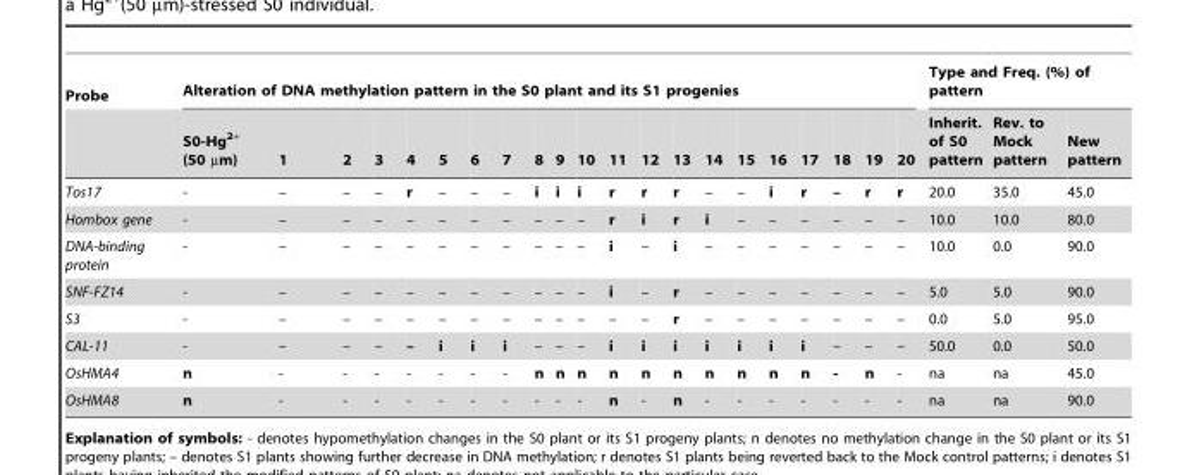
<table><thead><tr><td rowspan="2">Probe</td><td colspan="21">Alteration of DNA methylation pattern in the S0 plant and its S1 progenies</td><td colspan="3">Type and Freq. (%) of pattern</td></tr><tr><td>S0-Hg<sup>2+</sup> (50 µm)</td><td>1</td><td>2</td><td>3</td><td>4</td><td>5</td><td>6</td><td>7</td><td>8</td><td>9</td><td>10</td><td>11</td><td>12</td><td>13</td><td>14</td><td>15</td><td>16</td><td>17</td><td>18</td><td>19</td><td>20</td><td>Inherit. of S0 pattern</td><td>Rev. to Mock pattern</td><td>New pattern</td></tr></thead><tbody><tr><td>Tos17</td><td>-</td><td>–</td><td>–</td><td>–</td><td>r</td><td>–</td><td>–</td><td>–</td><td>i</td><td>i</td><td>i</td><td>r</td><td>r</td><td>r</td><td>–</td><td>–</td><td>i</td><td>r</td><td>–</td><td>r</td><td>r</td><td>20.0</td><td>35.0</td><td>45.0</td></tr><tr><td>Hombox gene</td><td>-</td><td>–</td><td>–</td><td>–</td><td>–</td><td>–</td><td>–</td><td>–</td><td>–</td><td>–</td><td>–</td><td>r</td><td>i</td><td>r</td><td>i</td><td>–</td><td>–</td><td>–</td><td>–</td><td>–</td><td>–</td><td>10.0</td><td>10.0</td><td>80.0</td></tr><tr><td>DNA-binding protein</td><td>-</td><td>–</td><td>–</td><td>–</td><td>–</td><td>–</td><td>–</td><td>–</td><td>–</td><td>–</td><td>–</td><td>i</td><td>–</td><td>i</td><td>–</td><td>–</td><td>–</td><td>–</td><td>–</td><td>–</td><td>–</td><td>10.0</td><td>0.0</td><td>90.0</td></tr><tr><td>SNF-FZ14</td><td>-</td><td>–</td><td>–</td><td>–</td><td>–</td><td>–</td><td>–</td><td>–</td><td>–</td><td>–</td><td>–</td><td>i</td><td>–</td><td>r</td><td>–</td><td>–</td><td>–</td><td>–</td><td>–</td><td>–</td><td>–</td><td>5.0</td><td>5.0</td><td>90.0</td></tr><tr><td>S3</td><td>-</td><td>–</td><td>–</td><td>–</td><td>–</td><td>–</td><td>–</td><td>–</td><td>–</td><td>–</td><td>–</td><td>–</td><td>–</td><td>r</td><td>–</td><td>–</td><td>–</td><td>–</td><td>–</td><td>–</td><td>–</td><td>0.0</td><td>5.0</td><td>95.0</td></tr><tr><td>CAL-11</td><td>-</td><td>–</td><td>–</td><td>–</td><td>–</td><td>i</td><td>i</td><td>i</td><td>–</td><td>–</td><td>–</td><td>i</td><td>i</td><td>i</td><td>i</td><td>i</td><td>i</td><td>i</td><td>–</td><td>–</td><td>–</td><td>50.0</td><td>0.0</td><td>50.0</td></tr><tr><td>OsHMA4</td><td>n</td><td>-</td><td>-</td><td>-</td><td>-</td><td>-</td><td>-</td><td>-</td><td>n</td><td>n</td><td>n</td><td>n</td><td>n</td><td>n</td><td>n</td><td>n</td><td>n</td><td>n</td><td>-</td><td>n</td><td>-</td><td>na</td><td>na</td><td>45.0</td></tr><tr><td>OsHMA8</td><td>n</td><td>-</td><td>-</td><td>-</td><td>-</td><td>-</td><td>-</td><td>-</td><td>-</td><td>-</td><td>-</td><td>n</td><td>-</td><td>n</td><td>-</td><td>-</td><td>-</td><td>-</td><td>-</td><td>-</td><td>-</td><td>na</td><td>na</td><td>90.0</td></tr></tbody></table>